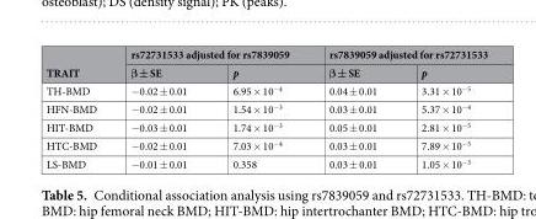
<table><thead><tr><td rowspan="2">TRAIT</td><td colspan="2">rs72731533 adjusted for rs7839059</td><td colspan="2">rs7839059 adjusted for rs72731533</td></tr><tr><td>β ± SE</td><td>p</td><td>β ± SE</td><td>p</td></tr></thead><tbody><tr><td>TH-BMD</td><td>−0.02 ± 0.01</td><td>6.95 × 10<sup>−4</sup></td><td>0.04 ± 0.01</td><td>3.31 × 10<sup>−5</sup></td></tr><tr><td>HFN-BMD</td><td>−0.02 ± 0.01</td><td>1.54 × 10<sup>−3</sup></td><td>0.03 ± 0.01</td><td>5.37 × 10<sup>−4</sup></td></tr><tr><td>HIT-BMD</td><td>−0.03 ± 0.01</td><td>1.74 × 10<sup>−3</sup></td><td>0.05 ± 0.01</td><td>2.81 × 10<sup>−5</sup></td></tr><tr><td>HTC-BMD</td><td>−0.02 ± 0.01</td><td>7.03 × 10<sup>−4</sup></td><td>0.03 ± 0.01</td><td>7.89 × 10<sup>−5</sup></td></tr><tr><td>LS-BMD</td><td>−0.01 ± 0.01</td><td>0.358</td><td>0.03 ± 0.01</td><td>1.05 × 10<sup>−3</sup></td></tr></tbody></table>